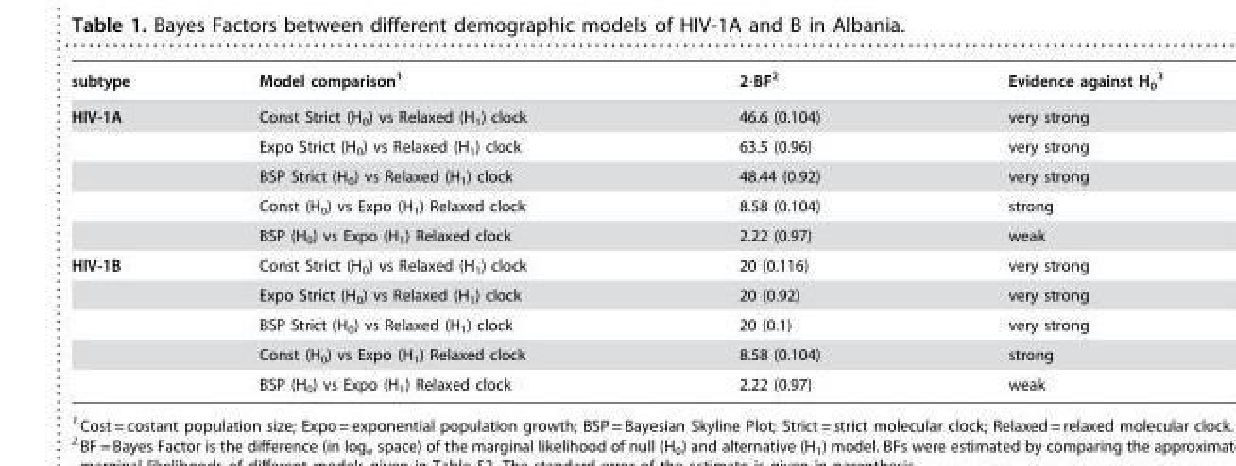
<table><thead><tr><td>subtype</td><td>Model comparison<sup>1</sup></td><td>2·BF<sup>2</sup></td><td>Evidence against H<sub>0</sub> 3</td></tr></thead><tbody><tr><td rowspan="5">HIV-1A</td><td>Const Strict (H<sub>0</sub>) vs Relaxed (H<sub>1</sub>) clock</td><td>46.6 (0.104)</td><td>very strong</td></tr><tr><td>Expo Strict (H<sub>0</sub>) vs Relaxed (H<sub>1</sub>) clock</td><td>63.5 (0.96)</td><td>very strong</td></tr><tr><td>BSP Strict (H<sub>0</sub>) vs Relaxed (H<sub>1</sub>) clock</td><td>48.44 (0.92)</td><td>very strong</td></tr><tr><td>Const (H<sub>0</sub>) vs Expo (H<sub>1</sub>) Relaxed clock</td><td>8.58 (0.104)</td><td>strong</td></tr><tr><td>BSP (H<sub>0</sub>) vs Expo (H<sub>1</sub>) Relaxed clock</td><td>2.22 (0.97)</td><td>weak</td></tr><tr><td rowspan="5">HIV-1B</td><td>Const Strict (H<sub>0</sub>) vs Relaxed (H<sub>1</sub>) clock</td><td>20 (0.116)</td><td>very strong</td></tr><tr><td>Expo Strict (H<sub>0</sub>) vs Relaxed (H<sub>1</sub>) clock</td><td>20 (0.92)</td><td>very strong</td></tr><tr><td>BSP Strict (H<sub>0</sub>) vs Relaxed (H<sub>1</sub>) clock</td><td>20 (0.1)</td><td>very strong</td></tr><tr><td>Const (H<sub>0</sub>) vs Expo (H<sub>1</sub>) Relaxed clock</td><td>8.58 (0.104)</td><td>strong</td></tr><tr><td>BSP (H<sub>0</sub>) vs Expo (H<sub>1</sub>) Relaxed clock</td><td>2.22 (0.97)</td><td>weak</td></tr></tbody></table>